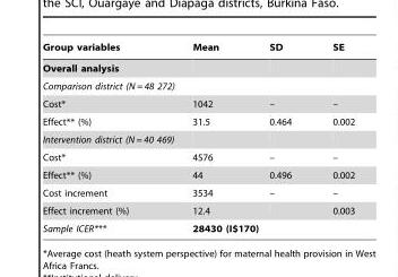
<table><thead><tr><td>Group variables</td><td>Mean</td><td>SD</td><td>SE</td></tr></thead><tbody><tr><td colspan="4">Overall analysis</td></tr><tr><td colspan="4">Comparison district (N = 48 272)</td></tr><tr><td>Cost*</td><td>1042</td><td>–</td><td>–</td></tr><tr><td>Effect** (%)</td><td>31.5</td><td>0.464</td><td>0.002</td></tr><tr><td colspan="4">Intervention district (N = 40 469)</td></tr><tr><td>Cost*</td><td>4576</td><td>–</td><td>–</td></tr><tr><td>Effect** (%)</td><td>44</td><td>0.496</td><td>0.002</td></tr><tr><td>Cost increment</td><td>3534</td><td>–</td><td>–</td></tr><tr><td>Effect increment (%)</td><td>12.4</td><td></td><td>0.003</td></tr><tr><td>Sample ICER***</td><td>28430 (I$170)</td><td></td><td></td></tr></tbody></table>